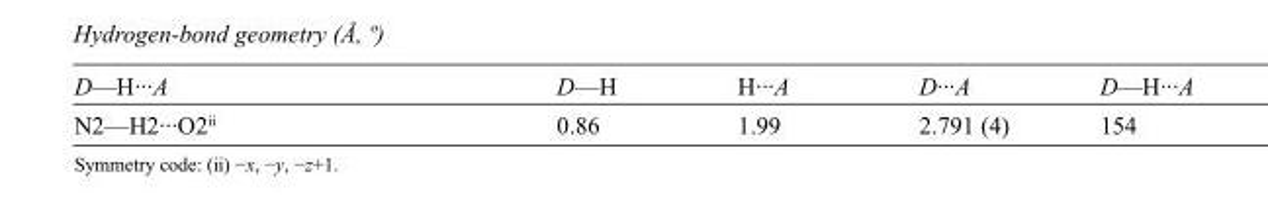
<table><tbody><tr><td>D—H···A</td><td>D—H</td><td>H···A</td><td>D···A</td><td>D—H···A</td></tr><tr><td>N2—H2···O2<sup>ii</sup></td><td>0.86</td><td>1.99</td><td>2.791 (4)</td><td>154</td></tr></tbody></table>